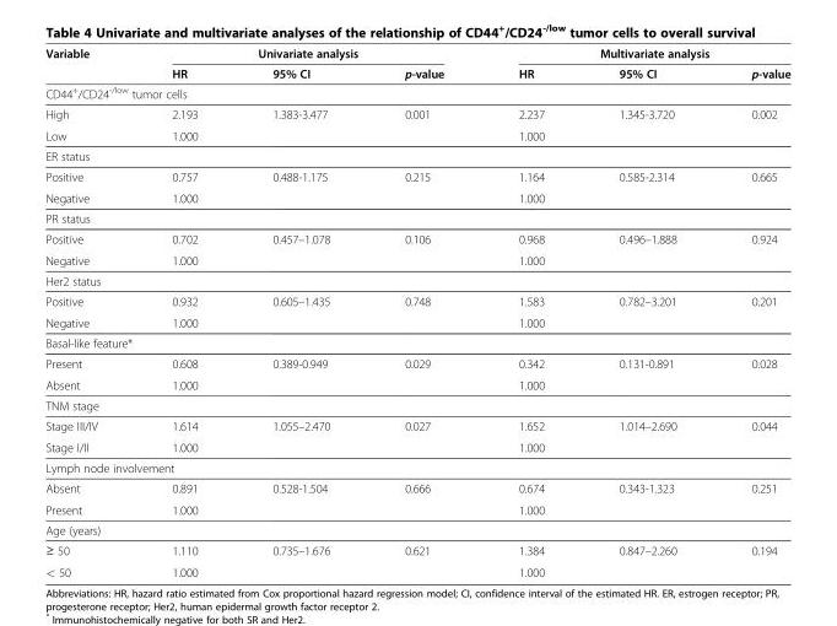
<table><thead><tr><td rowspan="2">Variable</td><td colspan="3">Univariate analysis</td><td colspan="3">Multivariate analysis</td></tr><tr><td>HR</td><td>95% CI</td><td>p-value</td><td>HR</td><td>95% CI</td><td>p-value</td></tr></thead><tbody><tr><td colspan="7">CD44<sup>+</sup>/CD24<sup>-/low</sup> tumor cells</td></tr><tr><td>High</td><td>2.193</td><td>1.383-3.477</td><td>0.001</td><td>2.237</td><td>1.345-3.720</td><td>0.002</td></tr><tr><td>Low</td><td>1.000</td><td></td><td></td><td>1.000</td><td></td><td></td></tr><tr><td colspan="7">ER status</td></tr><tr><td>Positive</td><td>0.757</td><td>0.488-1.175</td><td>0.215</td><td>1.164</td><td>0.585-2.314</td><td>0.665</td></tr><tr><td>Negative</td><td>1.000</td><td></td><td></td><td>1.000</td><td></td><td></td></tr><tr><td colspan="7">PR status</td></tr><tr><td>Positive</td><td>0.702</td><td>0.457–1.078</td><td>0.106</td><td>0.968</td><td>0.496–1.888</td><td>0.924</td></tr><tr><td>Negative</td><td>1.000</td><td></td><td></td><td>1.000</td><td></td><td></td></tr><tr><td colspan="7">Her2 status</td></tr><tr><td>Positive</td><td>0.932</td><td>0.605–1.435</td><td>0.748</td><td>1.583</td><td>0.782–3.201</td><td>0.201</td></tr><tr><td>Negative</td><td>1.000</td><td></td><td></td><td>1.000</td><td></td><td></td></tr><tr><td colspan="7">Basal-like feature*</td></tr><tr><td>Present</td><td>0.608</td><td>0.389-0.949</td><td>0.029</td><td>0.342</td><td>0.131-0.891</td><td>0.028</td></tr><tr><td>Absent</td><td>1.000</td><td></td><td></td><td>1.000</td><td></td><td></td></tr><tr><td colspan="7">TNM stage</td></tr><tr><td>Stage III/IV</td><td>1.614</td><td>1.055–2.470</td><td>0.027</td><td>1.652</td><td>1.014–2.690</td><td>0.044</td></tr><tr><td>Stage I/II</td><td>1.000</td><td></td><td></td><td>1.000</td><td></td><td></td></tr><tr><td colspan="7">Lymph node involvement</td></tr><tr><td>Absent</td><td>0.891</td><td>0.528-1.504</td><td>0.666</td><td>0.674</td><td>0.343-1.323</td><td>0.251</td></tr><tr><td>Present</td><td>1.000</td><td></td><td></td><td>1.000</td><td></td><td></td></tr><tr><td colspan="7">Age (years)</td></tr><tr><td>≥ 50</td><td>1.110</td><td>0.735–1.676</td><td>0.621</td><td>1.384</td><td>0.847–2.260</td><td>0.194</td></tr><tr><td>&lt; 50</td><td>1.000</td><td></td><td></td><td>1.000</td><td></td><td></td></tr></tbody></table>